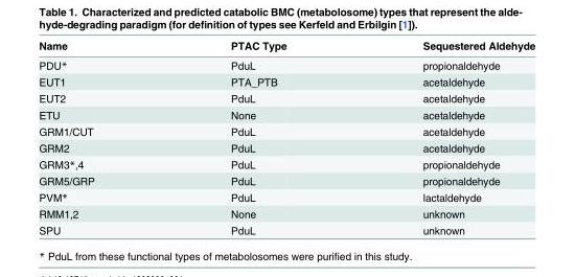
<table><thead><tr><td>Name</td><td>PTAC Type</td><td>Sequestered Aldehyde</td></tr></thead><tbody><tr><td>PDU*</td><td>PduL</td><td>propionaldehyde</td></tr><tr><td>EUT1</td><td>PTA_PTB</td><td>acetaldehyde</td></tr><tr><td>EUT2</td><td>PduL</td><td>acetaldehyde</td></tr><tr><td>ETU</td><td>None</td><td>acetaldehyde</td></tr><tr><td>GRM1/CUT</td><td>PduL</td><td>acetaldehyde</td></tr><tr><td>GRM2</td><td>PduL</td><td>acetaldehyde</td></tr><tr><td>GRM3*,4</td><td>PduL</td><td>propionaldehyde</td></tr><tr><td>GRM5/GRP</td><td>PduL</td><td>propionaldehyde</td></tr><tr><td>PVM*</td><td>PduL</td><td>lactaldehyde</td></tr><tr><td>RMM1,2</td><td>None</td><td>unknown</td></tr><tr><td>SPU</td><td>PduL</td><td>unknown</td></tr></tbody></table>